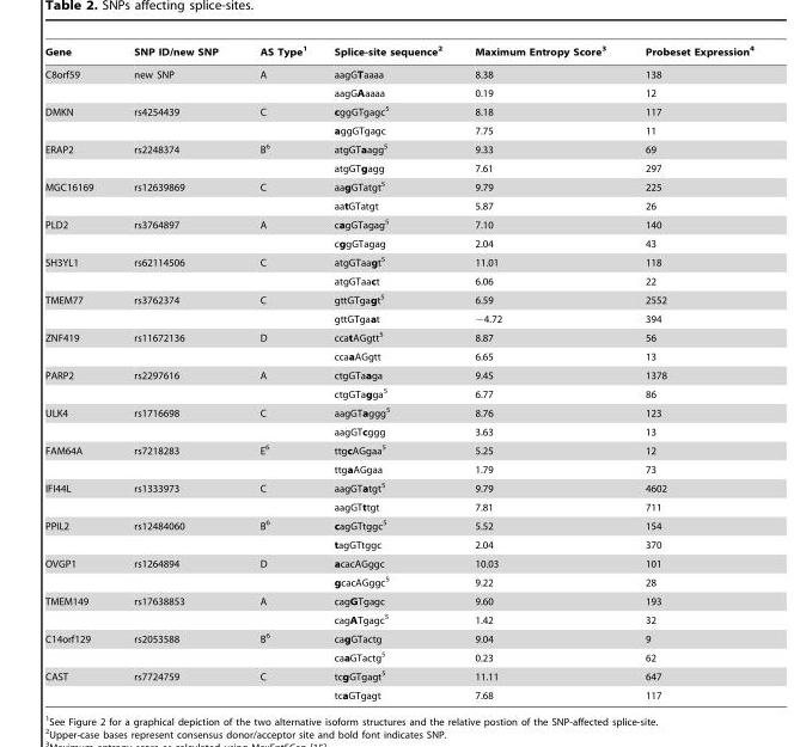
<table><thead><tr><td>Gene</td><td>SNP ID/new SNP</td><td>AS Type<sup>1</sup></td><td>Splice-site sequence<sup>2</sup></td><td>Maximum Entropy Score<sup>3</sup></td><td>Probeset Expression<sup>4</sup></td></tr></thead><tbody><tr><td rowspan="2">C8orf59</td><td>new SNP</td><td>A</td><td>aagGTaaaa</td><td>8.38</td><td>138</td></tr><tr><td></td><td></td><td>aagGAaaaa</td><td>0.19</td><td>12</td></tr><tr><td rowspan="2">DMKN</td><td>rs4254439</td><td>C</td><td>cggGTgagc5</td><td>8.18</td><td>117</td></tr><tr><td></td><td></td><td>aggGTgagc</td><td>7.75</td><td>11</td></tr><tr><td rowspan="2">ERAP2</td><td>rs2248374</td><td>B<sup>6</sup></td><td>atgGTaagg5</td><td>9.33</td><td>69</td></tr><tr><td></td><td></td><td>atgGTgagg</td><td>7.61</td><td>297</td></tr><tr><td rowspan="2">MGC16169</td><td>rs12639869</td><td>C</td><td>aagGTatgt5</td><td>9.79</td><td>225</td></tr><tr><td></td><td></td><td>aatGTatgt</td><td>5.87</td><td>26</td></tr><tr><td rowspan="2">PLD2</td><td>rs3764897</td><td>A</td><td>cagGTagag5</td><td>7.10</td><td>140</td></tr><tr><td></td><td></td><td>cggGTagag</td><td>2.04</td><td>43</td></tr><tr><td rowspan="2">SH3YL1</td><td>rs62114506</td><td>C</td><td>atgGTaagt5</td><td>11.01</td><td>118</td></tr><tr><td></td><td></td><td>atgGTaact</td><td>6.06</td><td>22</td></tr><tr><td rowspan="2">TMEM77</td><td>rs3762374</td><td>C</td><td>gttGTgagt5</td><td>6.59</td><td>2552</td></tr><tr><td></td><td></td><td>gttGTgaat</td><td>−4.72</td><td>394</td></tr><tr><td rowspan="2">ZNF419</td><td>rs11672136</td><td>D</td><td>ccatAGgtt5</td><td>8.87</td><td>56</td></tr><tr><td></td><td></td><td>ccaaAGgtt</td><td>6.65</td><td>13</td></tr><tr><td rowspan="2">PARP2</td><td>rs2297616</td><td>A</td><td>ctgGTaaga</td><td>9.45</td><td>1378</td></tr><tr><td></td><td></td><td>ctgGTagga5</td><td>6.77</td><td>86</td></tr><tr><td rowspan="2">ULK4</td><td>rs1716698</td><td>C</td><td>aagGTaggg5</td><td>8.76</td><td>123</td></tr><tr><td></td><td></td><td>aagGTcggg</td><td>3.63</td><td>13</td></tr><tr><td rowspan="2">FAM64A</td><td>rs7218283</td><td>E<sup>6</sup></td><td>ttgcAGgaa5</td><td>5.25</td><td>12</td></tr><tr><td></td><td></td><td>ttgaAGgaa</td><td>1.79</td><td>73</td></tr><tr><td rowspan="2">IFI44L</td><td>rs1333973</td><td>C</td><td>aagGTatgt5</td><td>9.79</td><td>4602</td></tr><tr><td></td><td></td><td>aagGTttgt</td><td>7.81</td><td>711</td></tr><tr><td rowspan="2">PPIL2</td><td>rs12484060</td><td>B<sup>6</sup></td><td>cagGTtggc5</td><td>5.52</td><td>154</td></tr><tr><td></td><td></td><td>tagGTtggc</td><td>2.04</td><td>370</td></tr><tr><td rowspan="2">OVGP1</td><td>rs1264894</td><td>D</td><td>acacAGggc</td><td>10.03</td><td>101</td></tr><tr><td></td><td></td><td>gcacAGggc5</td><td>9.22</td><td>28</td></tr><tr><td rowspan="2">TMEM149</td><td>rs17638853</td><td>A</td><td>cagGTgagc</td><td>9.60</td><td>193</td></tr><tr><td></td><td></td><td>cagATgagc5</td><td>1.42</td><td>32</td></tr><tr><td rowspan="2">C14orf129</td><td>rs2053588</td><td>B<sup>6</sup></td><td>cagGTactg</td><td>9.04</td><td>9</td></tr><tr><td></td><td></td><td>caaGTactg5</td><td>0.23</td><td>62</td></tr><tr><td rowspan="2">CAST</td><td>rs7724759</td><td>C</td><td>tcgGTgagt5</td><td>11.11</td><td>647</td></tr><tr><td></td><td></td><td>tcaGTgagt</td><td>7.68</td><td>117</td></tr></tbody></table>